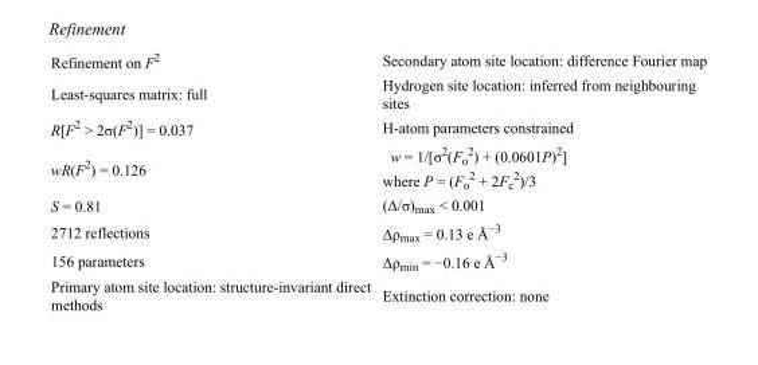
<table><tbody><tr><td>Refinement on F<sup>2</sup></td><td>Secondary atom site location: difference Fourier map</td></tr><tr><td>Least-squares matrix: full</td><td>Hydrogen site location: inferred from neighbouring sites</td></tr><tr><td>R[F<sup>2</sup> &gt; 2σ(F<sup>2</sup>)] = 0.037</td><td>H-atom parameters constrained</td></tr><tr><td>wR(F<sup>2</sup>) = 0.126</td><td>w = 1/[σ<sup>2</sup>(F<sub>o</sub> <sup>2</sup>) + (0.0601P)<sup>2</sup>] where P = (F<sub>o</sub> <sup>2</sup> + 2F<sub>c</sub> <sup>2</sup>)/3</td></tr><tr><td>S = 0.81</td><td>(Δ/σ)<sub>max</sub> &lt; 0.001</td></tr><tr><td>2712 reflections</td><td>Δρ<sub>max</sub> = 0.13 e Å<sup>−3</sup></td></tr><tr><td>156 parameters</td><td>Δρ<sub>min</sub> = −0.16 e Å<sup>−3</sup></td></tr><tr><td>Primary atom site location: structure-invariant direct methods</td><td>Extinction correction: none</td></tr></tbody></table>